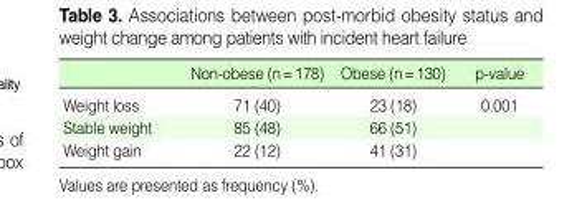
<table><thead><tr><td></td><td>Non-obese (n=178)</td><td>Obese (n=130)</td><td>p-value</td></tr></thead><tbody><tr><td>Weight loss</td><td>71 (40)</td><td>23 (18)</td><td>0.001</td></tr><tr><td>Stable weight</td><td>85 (48)</td><td>66 (51)</td><td></td></tr><tr><td>Weight gain</td><td>22 (12)</td><td>41 (31)</td><td></td></tr></tbody></table>